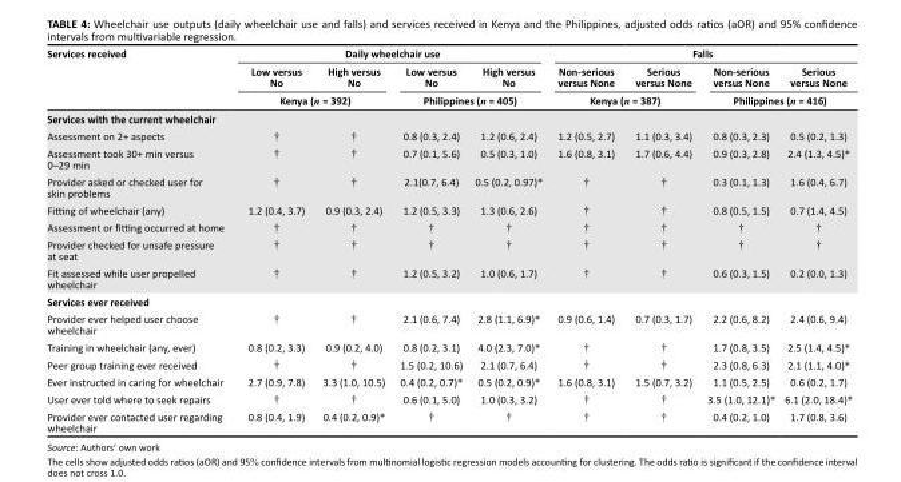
<table><thead><tr><td rowspan="3">Services received</td><td colspan="4">Daily wheelchair use</td><td colspan="4">Falls</td></tr><tr><td>Low versus No</td><td>High versus No</td><td>Low versus No</td><td>High versus No</td><td>Non-serious versus None</td><td>Serious versus None</td><td>Non-serious versus None</td><td>Serious versus None</td></tr><tr><td colspan="2">Kenya (n = 392)</td><td colspan="2">Philippines (n = 405)</td><td colspan="2">Kenya (n = 387)</td><td colspan="2">Philippines (n = 416)</td></tr></thead><tbody><tr><td colspan="9">Services with the current wheelchair</td></tr><tr><td>Assessment on 2+ aspects</td><td>†</td><td>†</td><td>0.8 (0.3, 2.4)</td><td>1.2 (0.6, 2.4)</td><td>1.2 (0.5, 2.7)</td><td>1.1 (0.3, 3.4)</td><td>0.8 (0.3, 2.3)</td><td>0.5 (0.2, 1.3)</td></tr><tr><td>Assessment took 30+ min versus 0–29 min</td><td>†</td><td>†</td><td>0.7 (0.1, 5.6)</td><td>0.5 (0.3, 1.0)</td><td>1.6 (0.8, 3.1)</td><td>1.7 (0.6, 4.4)</td><td>0.9 (0.3, 2.8)</td><td>2.4 (1.3, 4.5)*</td></tr><tr><td>Provider asked or checked user for skin problems</td><td>†</td><td>†</td><td>2.1(0.7, 6.4)</td><td>0.5 (0.2, 0.97)*</td><td>†</td><td>†</td><td>0.3 (0.1, 1.3)</td><td>1.6 (0.4, 6.7)</td></tr><tr><td>Fitting of wheelchair (any)</td><td>1.2 (0.4, 3.7)</td><td>0.9 (0.3, 2.4)</td><td>1.2 (0.5, 3.3)</td><td>1.3 (0.6, 2.6)</td><td>†</td><td>†</td><td>0.8 (0.5, 1.5)</td><td>0.7 (1.4, 4.5)</td></tr><tr><td>Assessment or fitting occurred at home</td><td>†</td><td>†</td><td>†</td><td>†</td><td>†</td><td>†</td><td>†</td><td>†</td></tr><tr><td>Provider checked for unsafe pressure at seat</td><td>†</td><td>†</td><td>†</td><td>†</td><td>†</td><td>†</td><td>†</td><td>†</td></tr><tr><td>Fit assessed while user propelled wheelchair</td><td>†</td><td>†</td><td>1.2 (0.5, 3.2)</td><td>1.0 (0.6, 1.7)</td><td>†</td><td>†</td><td>0.6 (0.3, 1.5)</td><td>0.2 (0.0, 1.3)</td></tr><tr><td colspan="9">Services ever received</td></tr><tr><td>Provider ever helped user choose wheelchair</td><td>†</td><td>†</td><td>2.1 (0.6, 7.4)</td><td>2.8 (1.1, 6.9)*</td><td>0.9 (0.6, 1.4)</td><td>0.7 (0.3, 1.7)</td><td>2.2 (0.6, 8.2)</td><td>2.4 (0.6, 9.4)</td></tr><tr><td>Training in wheelchair (any, ever)</td><td>0.8 (0.2, 3.3)</td><td>0.9 (0.2, 4.0)</td><td>0.8 (0.2, 3.1)</td><td>4.0 (2.3, 7.0)*</td><td>†</td><td>†</td><td>1.7 (0.8, 3.5)</td><td>2.5 (1.4, 4.5)*</td></tr><tr><td>Peer group training ever received</td><td>†</td><td>†</td><td>1.5 (0.2, 10.6)</td><td>2.1 (0.7, 6.4)</td><td>†</td><td>†</td><td>2.3 (0.8, 6.3)</td><td>2.1 (1.1, 4.0)*</td></tr><tr><td>Ever instructed in caring for wheelchair</td><td>2.7 (0.9, 7.8)</td><td>3.3 (1.0, 10.5)</td><td>0.4 (0.2, 0.7)*</td><td>0.5 (0.2, 0.9)*</td><td>1.6 (0.8, 3.1)</td><td>1.5 (0.7, 3.2)</td><td>1.1 (0.5, 2.5)</td><td>0.6 (0.2, 1.7)</td></tr><tr><td>User ever told where to seek repairs</td><td>†</td><td>†</td><td>0.6 (0.1, 5.0)</td><td>1.0 (0.3, 3.2)</td><td>†</td><td>†</td><td>3.5 (1.0, 12.1)*</td><td>6.1 (2.0, 18.4)*</td></tr><tr><td>Provider ever contacted user regarding wheelchair</td><td>0.8 (0.4, 1.9)</td><td>0.4 (0.2, 0.9)*</td><td>†</td><td>†</td><td>†</td><td>†</td><td>0.4 (0.2, 1.0)</td><td>1.7 (0.8, 3.6)</td></tr></tbody></table>